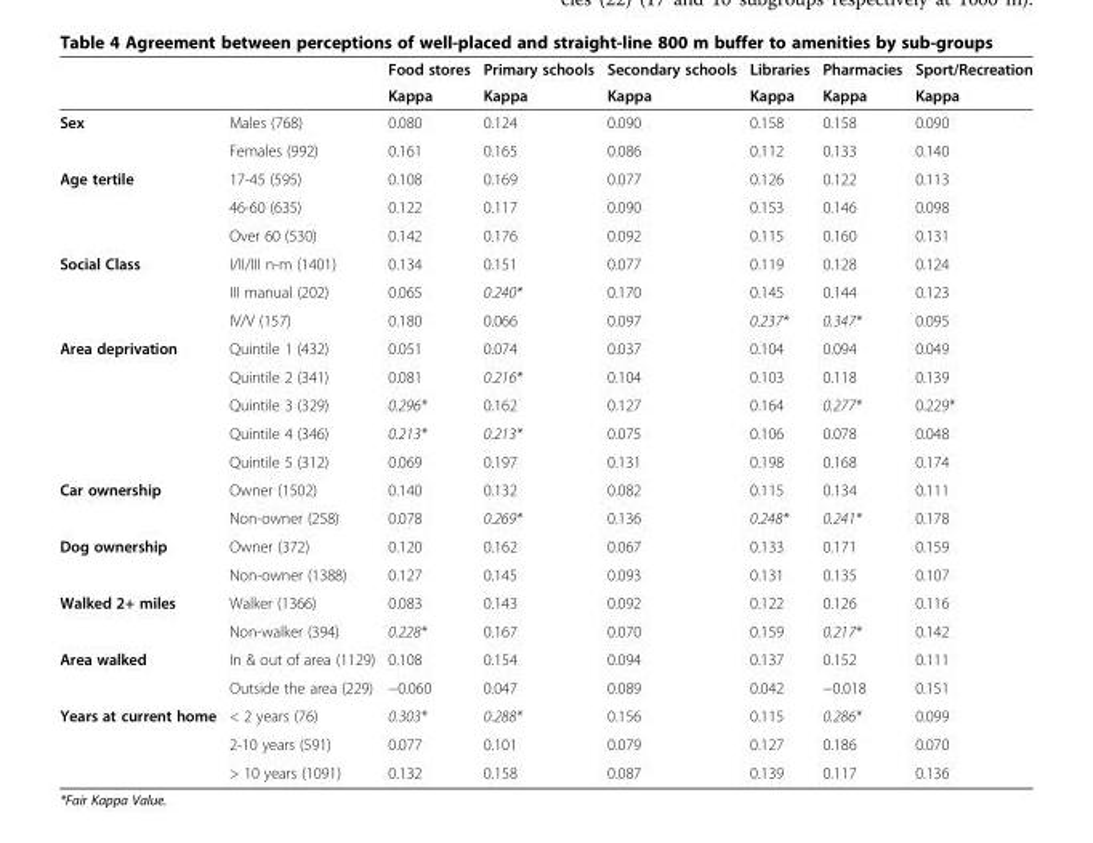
<table><thead><tr><td rowspan="2"></td><td rowspan="2"></td><td rowspan="2">Food stores Kappa</td><td rowspan="2">Primary schools Kappa</td><td rowspan="2">Secondary schools Kappa</td><td rowspan="2">Libraries Kappa</td><td rowspan="2">Pharmacies Kappa</td><td rowspan="2">Sport/Recreation Kappa</td></tr><tr></tr></thead><tbody><tr><td rowspan="2">Sex</td><td>Males (768)</td><td>0.080</td><td>0.124</td><td>0.090</td><td>0.158</td><td>0.158</td><td>0.090</td></tr><tr><td>Females (992)</td><td>0.161</td><td>0.165</td><td>0.086</td><td>0.112</td><td>0.133</td><td>0.140</td></tr><tr><td rowspan="3">Age tertile</td><td>17-45 (595)</td><td>0.108</td><td>0.169</td><td>0.077</td><td>0.126</td><td>0.122</td><td>0.113</td></tr><tr><td>46-60 (635)</td><td>0.122</td><td>0.117</td><td>0.090</td><td>0.153</td><td>0.146</td><td>0.098</td></tr><tr><td>Over 60 (530)</td><td>0.142</td><td>0.176</td><td>0.092</td><td>0.115</td><td>0.160</td><td>0.131</td></tr><tr><td rowspan="3">Social Class</td><td>I/II/III n-m (1401)</td><td>0.134</td><td>0.151</td><td>0.077</td><td>0.119</td><td>0.128</td><td>0.124</td></tr><tr><td>III manual (202)</td><td>0.065</td><td>0.240*</td><td>0.170</td><td>0.145</td><td>0.144</td><td>0.123</td></tr><tr><td>IV/V (157)</td><td>0.180</td><td>0.066</td><td>0.097</td><td>0.237*</td><td>0.347*</td><td>0.095</td></tr><tr><td rowspan="5">Area deprivation</td><td>Quintile 1 (432)</td><td>0.051</td><td>0.074</td><td>0.037</td><td>0.104</td><td>0.094</td><td>0.049</td></tr><tr><td>Quintile 2 (341)</td><td>0.081</td><td>0.216*</td><td>0.104</td><td>0.103</td><td>0.118</td><td>0.139</td></tr><tr><td>Quintile 3 (329)</td><td>0.296*</td><td>0.162</td><td>0.127</td><td>0.164</td><td>0.277*</td><td>0.229*</td></tr><tr><td>Quintile 4 (346)</td><td>0.213*</td><td>0.213*</td><td>0.075</td><td>0.106</td><td>0.078</td><td>0.048</td></tr><tr><td>Quintile 5 (312)</td><td>0.069</td><td>0.197</td><td>0.131</td><td>0.198</td><td>0.168</td><td>0.174</td></tr><tr><td rowspan="2">Car ownership</td><td>Owner (1502)</td><td>0.140</td><td>0.132</td><td>0.082</td><td>0.115</td><td>0.134</td><td>0.111</td></tr><tr><td>Non-owner (258)</td><td>0.078</td><td>0.269*</td><td>0.136</td><td>0.248*</td><td>0.241*</td><td>0.178</td></tr><tr><td rowspan="2">Dog ownership</td><td>Owner (372)</td><td>0.120</td><td>0.162</td><td>0.067</td><td>0.133</td><td>0.171</td><td>0.159</td></tr><tr><td>Non-owner (1388)</td><td>0.127</td><td>0.145</td><td>0.093</td><td>0.131</td><td>0.135</td><td>0.107</td></tr><tr><td rowspan="2">Walked 2+ miles</td><td>Walker (1366)</td><td>0.083</td><td>0.143</td><td>0.092</td><td>0.122</td><td>0.126</td><td>0.116</td></tr><tr><td>Non-walker (394)</td><td>0.228*</td><td>0.167</td><td>0.070</td><td>0.159</td><td>0.217*</td><td>0.142</td></tr><tr><td rowspan="2">Area walked</td><td>In &amp; out of area (1129)</td><td>0.108</td><td>0.154</td><td>0.094</td><td>0.137</td><td>0.152</td><td>0.111</td></tr><tr><td>Outside the area (229)</td><td>−0.060</td><td>0.047</td><td>0.089</td><td>0.042</td><td>−0.018</td><td>0.151</td></tr><tr><td rowspan="3">Years at current home</td><td>&lt; 2 years (76)</td><td>0.303*</td><td>0.288*</td><td>0.156</td><td>0.115</td><td>0.286*</td><td>0.099</td></tr><tr><td>2-10 years (591)</td><td>0.077</td><td>0.101</td><td>0.079</td><td>0.127</td><td>0.186</td><td>0.070</td></tr><tr><td>&gt; 10 years (1091)</td><td>0.132</td><td>0.158</td><td>0.087</td><td>0.139</td><td>0.117</td><td>0.136</td></tr></tbody></table>